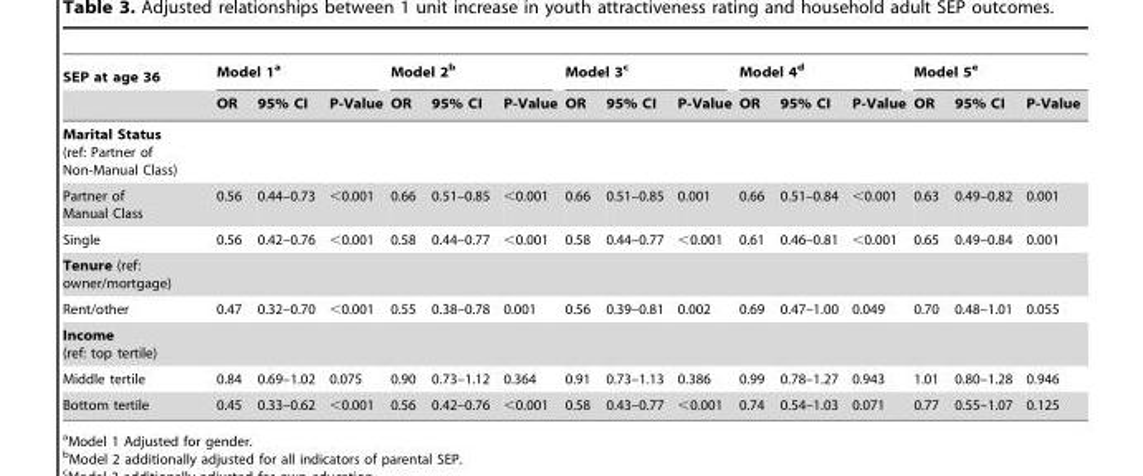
<table><thead><tr><td rowspan="2">SEP at age 36</td><td colspan="3">Model 1<sup>a</sup></td><td colspan="3">Model 2<sup>b</sup></td><td colspan="3">Model 3<sup>c</sup></td><td colspan="3">Model 4<sup>d</sup></td><td colspan="3">Model 5<sup>e</sup></td></tr><tr><td>OR</td><td>95% CI</td><td>P-Value</td><td>OR</td><td>95% CI</td><td>P-Value</td><td>OR</td><td>95% CI</td><td>P-Value</td><td>OR</td><td>95% CI</td><td>P-Value</td><td>OR</td><td>95% CI</td><td>P-Value</td></tr></thead><tbody><tr><td colspan="16">Marital Status (ref: Partner of Non-Manual Class)</td></tr><tr><td>Partner of Manual Class</td><td>0.56</td><td>0.44–0.73</td><td>&lt;0.001</td><td>0.66</td><td>0.51–0.85</td><td>&lt;0.001</td><td>0.66</td><td>0.51–0.85</td><td>0.001</td><td>0.66</td><td>0.51–0.84</td><td>&lt;0.001</td><td>0.63</td><td>0.49–0.82</td><td>0.001</td></tr><tr><td>Single</td><td>0.56</td><td>0.42–0.76</td><td>&lt;0.001</td><td>0.58</td><td>0.44–0.77</td><td>&lt;0.001</td><td>0.58</td><td>0.44–0.77</td><td>&lt;0.001</td><td>0.61</td><td>0.46–0.81</td><td>&lt;0.001</td><td>0.65</td><td>0.49–0.84</td><td>0.001</td></tr><tr><td colspan="16">Tenure (ref: owner/mortgage)</td></tr><tr><td>Rent/other</td><td>0.47</td><td>0.32–0.70</td><td>&lt;0.001</td><td>0.55</td><td>0.38–0.78</td><td>0.001</td><td>0.56</td><td>0.39–0.81</td><td>0.002</td><td>0.69</td><td>0.47–1.00</td><td>0.049</td><td>0.70</td><td>0.48–1.01</td><td>0.055</td></tr><tr><td colspan="16">Income (ref: top tertile)</td></tr><tr><td>Middle tertile</td><td>0.84</td><td>0.69–1.02</td><td>0.075</td><td>0.90</td><td>0.73–1.12</td><td>0.364</td><td>0.91</td><td>0.73–1.13</td><td>0.386</td><td>0.99</td><td>0.78–1.27</td><td>0.943</td><td>1.01</td><td>0.80–1.28</td><td>0.946</td></tr><tr><td>Bottom tertile</td><td>0.45</td><td>0.33–0.62</td><td>&lt;0.001</td><td>0.56</td><td>0.42–0.76</td><td>&lt;0.001</td><td>0.58</td><td>0.43–0.77</td><td>&lt;0.001</td><td>0.74</td><td>0.54–1.03</td><td>0.071</td><td>0.77</td><td>0.55–1.07</td><td>0.125</td></tr></tbody></table>